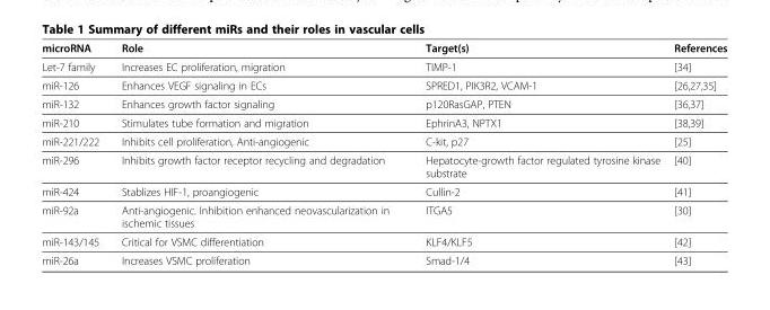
<table><thead><tr><td>microRNA</td><td>Role</td><td>Target(s)</td><td>References</td></tr></thead><tbody><tr><td>Let-7 family</td><td>Increases EC proliferation, migration</td><td>TIMP-1</td><td>[34]</td></tr><tr><td>miR-126</td><td>Enhances VEGF signaling in ECs</td><td>SPRED1, PIK3R2, VCAM-1</td><td>[26,27,35]</td></tr><tr><td>miR-132</td><td>Enhances growth factor signaling</td><td>p120RasGAP, PTEN</td><td>[36,37]</td></tr><tr><td>miR-210</td><td>Stimulates tube formation and migration</td><td>EphrinA3, NPTX1</td><td>[38,39]</td></tr><tr><td>miR-221/222</td><td>Inhibits cell proliferation, Anti-angiogenic</td><td>C-kit, p27</td><td>[25]</td></tr><tr><td>miR-296</td><td>Inhibits growth factor receptor recycling and degradation</td><td>Hepatocyte-growth factor regulated tyrosine kinase substrate</td><td>[40]</td></tr><tr><td>miR-424</td><td>Stablizes HIF-1, proangiogenic</td><td>Cullin-2</td><td>[41]</td></tr><tr><td>miR-92a</td><td>Anti-angiogenic. Inhibition enhanced neovascularization in ischemic tissues</td><td>ITGA5</td><td>[30]</td></tr><tr><td>miR-143/145</td><td>Critical for VSMC differentiation</td><td>KLF4/KLF5</td><td>[42]</td></tr><tr><td>miR-26a</td><td>Increases VSMC proliferation</td><td>Smad-1/4</td><td>[43]</td></tr></tbody></table>